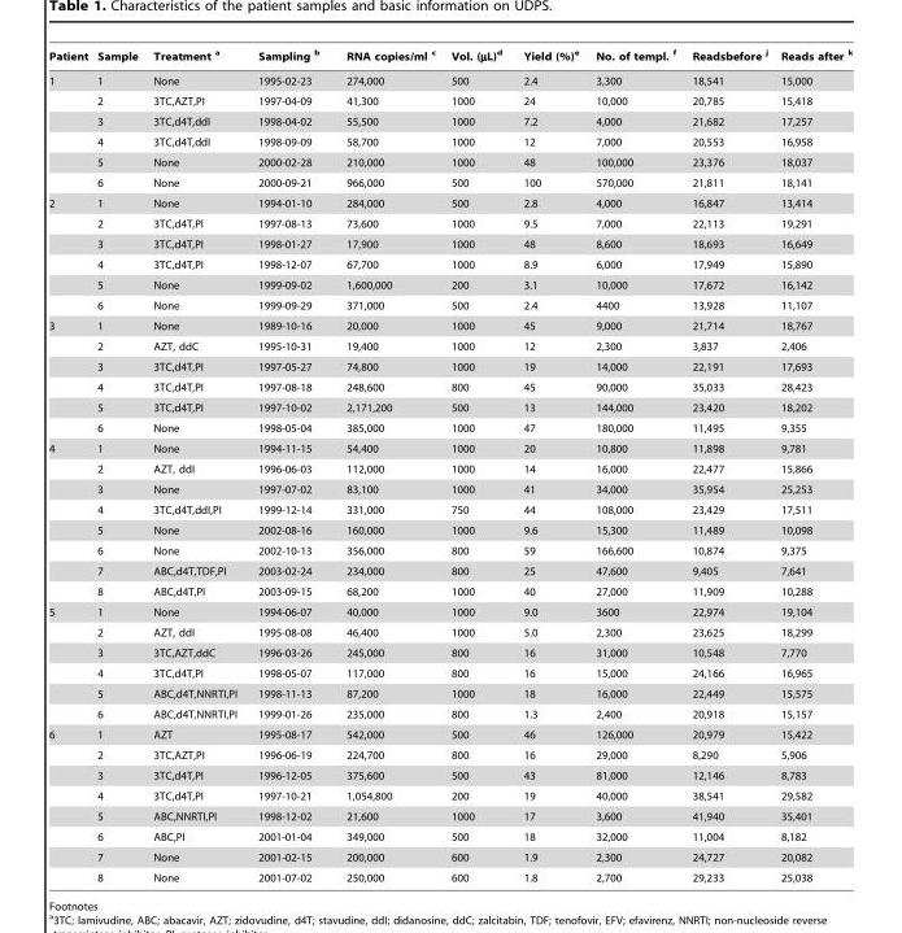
<table><thead><tr><td>Patient</td><td>Sample</td><td>Treatment a</td><td>Sampling b</td><td>RNA copies/ml c</td><td>Vol. (µL)<sup>d</sup></td><td>Yield (%)<sup>e</sup></td><td>No. of templ. f</td><td>Readsbefore j</td><td>Reads after k</td></tr></thead><tbody><tr><td rowspan="6">1</td><td>1</td><td>None</td><td>1995-02-23</td><td>274,000</td><td>500</td><td>2.4</td><td>3,300</td><td>18,541</td><td>15,000</td></tr><tr><td>2</td><td>3TC,AZT,PI</td><td>1997-04-09</td><td>41,300</td><td>1000</td><td>24</td><td>10,000</td><td>20,785</td><td>15,418</td></tr><tr><td>3</td><td>3TC,d4T,ddI</td><td>1998-04-02</td><td>55,500</td><td>1000</td><td>7.2</td><td>4,000</td><td>21,682</td><td>17,257</td></tr><tr><td>4</td><td>3TC,d4T,ddI</td><td>1998-09-09</td><td>58,700</td><td>1000</td><td>12</td><td>7,000</td><td>20,553</td><td>16,958</td></tr><tr><td>5</td><td>None</td><td>2000-02-28</td><td>210,000</td><td>1000</td><td>48</td><td>100,000</td><td>23,376</td><td>18,037</td></tr><tr><td>6</td><td>None</td><td>2000-09-21</td><td>966,000</td><td>500</td><td>100</td><td>570,000</td><td>21,811</td><td>18,141</td></tr><tr><td rowspan="6">2</td><td>1</td><td>None</td><td>1994-01-10</td><td>284,000</td><td>500</td><td>2.8</td><td>4,000</td><td>16,847</td><td>13,414</td></tr><tr><td>2</td><td>3TC,d4T,PI</td><td>1997-08-13</td><td>73,600</td><td>1000</td><td>9.5</td><td>7,000</td><td>22,113</td><td>19,291</td></tr><tr><td>3</td><td>3TC,d4T,PI</td><td>1998-01-27</td><td>17,900</td><td>1000</td><td>48</td><td>8,600</td><td>18,693</td><td>16,649</td></tr><tr><td>4</td><td>3TC,d4T,PI</td><td>1998-12-07</td><td>67,700</td><td>1000</td><td>8.9</td><td>6,000</td><td>17,949</td><td>15,890</td></tr><tr><td>5</td><td>None</td><td>1999-09-02</td><td>1,600,000</td><td>200</td><td>3.1</td><td>10,000</td><td>17,672</td><td>16,142</td></tr><tr><td>6</td><td>None</td><td>1999-09-29</td><td>371,000</td><td>500</td><td>2.4</td><td>4400</td><td>13,928</td><td>11,107</td></tr><tr><td rowspan="6">3</td><td>1</td><td>None</td><td>1989-10-16</td><td>20,000</td><td>1000</td><td>45</td><td>9,000</td><td>21,714</td><td>18,767</td></tr><tr><td>2</td><td>AZT, ddC</td><td>1995-10-31</td><td>19,400</td><td>1000</td><td>12</td><td>2,300</td><td>3,837</td><td>2,406</td></tr><tr><td>3</td><td>3TC,d4T,PI</td><td>1997-05-27</td><td>74,800</td><td>1000</td><td>19</td><td>14,000</td><td>22,191</td><td>17,693</td></tr><tr><td>4</td><td>3TC,d4T,PI</td><td>1997-08-18</td><td>248,600</td><td>800</td><td>45</td><td>90,000</td><td>35,033</td><td>28,423</td></tr><tr><td>5</td><td>3TC,d4T,PI</td><td>1997-10-02</td><td>2,171,200</td><td>500</td><td>13</td><td>144,000</td><td>23,420</td><td>18,202</td></tr><tr><td>6</td><td>None</td><td>1998-05-04</td><td>385,000</td><td>1000</td><td>47</td><td>180,000</td><td>11,495</td><td>9,355</td></tr><tr><td rowspan="8">4</td><td>1</td><td>None</td><td>1994-11-15</td><td>54,400</td><td>1000</td><td>20</td><td>10,800</td><td>11,898</td><td>9,781</td></tr><tr><td>2</td><td>AZT, ddI</td><td>1996-06-03</td><td>112,000</td><td>1000</td><td>14</td><td>16,000</td><td>22,477</td><td>15,866</td></tr><tr><td>3</td><td>None</td><td>1997-07-02</td><td>83,100</td><td>1000</td><td>41</td><td>34,000</td><td>35,954</td><td>25,253</td></tr><tr><td>4</td><td>3TC,d4T,ddI,PI</td><td>1999-12-14</td><td>331,000</td><td>750</td><td>44</td><td>108,000</td><td>23,429</td><td>17,511</td></tr><tr><td>5</td><td>None</td><td>2002-08-16</td><td>160,000</td><td>1000</td><td>9.6</td><td>15,300</td><td>11,489</td><td>10,098</td></tr><tr><td>6</td><td>None</td><td>2002-10-13</td><td>356,000</td><td>800</td><td>59</td><td>166,600</td><td>10,874</td><td>9,375</td></tr><tr><td>7</td><td>ABC,d4T,TDF,PI</td><td>2003-02-24</td><td>234,000</td><td>800</td><td>25</td><td>47,600</td><td>9,405</td><td>7,641</td></tr><tr><td>8</td><td>ABC,d4T,PI</td><td>2003-09-15</td><td>68,200</td><td>1000</td><td>40</td><td>27,000</td><td>11,909</td><td>10,288</td></tr><tr><td rowspan="6">5</td><td>1</td><td>None</td><td>1994-06-07</td><td>40,000</td><td>1000</td><td>9.0</td><td>3600</td><td>22,974</td><td>19,104</td></tr><tr><td>2</td><td>AZT, ddI</td><td>1995-08-08</td><td>46,400</td><td>1000</td><td>5.0</td><td>2,300</td><td>23,625</td><td>18,299</td></tr><tr><td>3</td><td>3TC,AZT,ddC</td><td>1996-03-26</td><td>245,000</td><td>800</td><td>16</td><td>31,000</td><td>10,548</td><td>7,770</td></tr><tr><td>4</td><td>3TC,d4T,PI</td><td>1998-05-07</td><td>117,000</td><td>800</td><td>16</td><td>15,000</td><td>24,166</td><td>16,965</td></tr><tr><td>5</td><td>ABC,d4T,NNRTI,PI</td><td>1998-11-13</td><td>87,200</td><td>1000</td><td>18</td><td>16,000</td><td>22,449</td><td>15,575</td></tr><tr><td>6</td><td>ABC,d4T,NNRTI,PI</td><td>1999-01-26</td><td>235,000</td><td>800</td><td>1.3</td><td>2,400</td><td>20,918</td><td>15,157</td></tr><tr><td rowspan="8">6</td><td>1</td><td>AZT</td><td>1995-08-17</td><td>542,000</td><td>500</td><td>46</td><td>126,000</td><td>20,979</td><td>15,422</td></tr><tr><td>2</td><td>3TC,AZT,PI</td><td>1996-06-19</td><td>224,700</td><td>800</td><td>16</td><td>29,000</td><td>8,290</td><td>5,906</td></tr><tr><td>3</td><td>3TC,d4T,PI</td><td>1996-12-05</td><td>375,600</td><td>500</td><td>43</td><td>81,000</td><td>12,146</td><td>8,783</td></tr><tr><td>4</td><td>3TC,d4T,PI</td><td>1997-10-21</td><td>1,054,800</td><td>200</td><td>19</td><td>40,000</td><td>38,541</td><td>29,582</td></tr><tr><td>5</td><td>ABC,NNRTI,PI</td><td>1998-12-02</td><td>21,600</td><td>1000</td><td>17</td><td>3,600</td><td>41,940</td><td>35,401</td></tr><tr><td>6</td><td>ABC,PI</td><td>2001-01-04</td><td>349,000</td><td>500</td><td>18</td><td>32,000</td><td>11,004</td><td>8,182</td></tr><tr><td>7</td><td>None</td><td>2001-02-15</td><td>200,000</td><td>600</td><td>1.9</td><td>2,300</td><td>24,727</td><td>20,082</td></tr><tr><td>8</td><td>None</td><td>2001-07-02</td><td>250,000</td><td>600</td><td>1.8</td><td>2,700</td><td>29,233</td><td>25,038</td></tr></tbody></table>